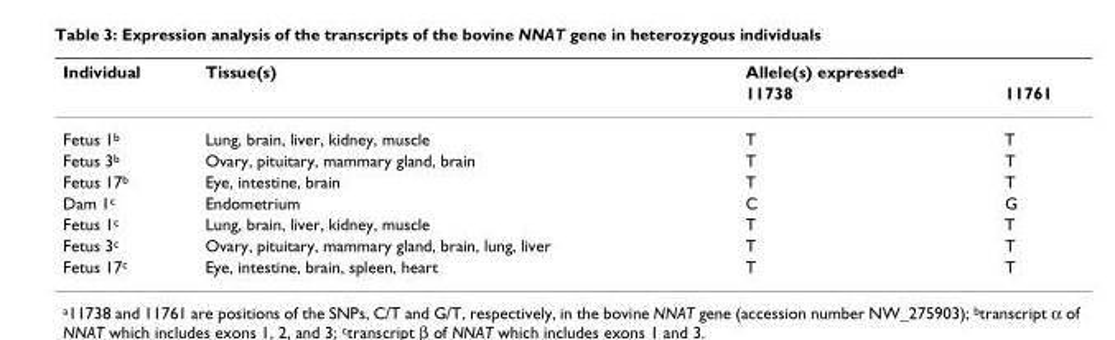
<table><thead><tr><td rowspan="2">Individual</td><td rowspan="2">Tissue(s)</td><td rowspan="2">Allele(s) expressed<sup>a</sup> 11738</td><td rowspan="2">11761</td></tr><tr></tr></thead><tbody><tr><td>Fetus 1<sup>b</sup></td><td>Lung, brain, liver, kidney, muscle</td><td>T</td><td>T</td></tr><tr><td>Fetus 3<sup>b</sup></td><td>Ovary, pituitary, mammary gland, brain</td><td>T</td><td>T</td></tr><tr><td>Fetus 17<sup>b</sup></td><td>Eye, intestine, brain</td><td>T</td><td>T</td></tr><tr><td>Dam 1<sup>c</sup></td><td>Endometrium</td><td>C</td><td>G</td></tr><tr><td>Fetus 1<sup>c</sup></td><td>Lung, brain, liver, kidney, muscle</td><td>T</td><td>T</td></tr><tr><td>Fetus 3<sup>c</sup></td><td>Ovary, pituitary, mammary gland, brain, lung, liver</td><td>T</td><td>T</td></tr><tr><td>Fetus 17<sup>c</sup></td><td>Eye, intestine, brain, spleen, heart</td><td>T</td><td>T</td></tr></tbody></table>